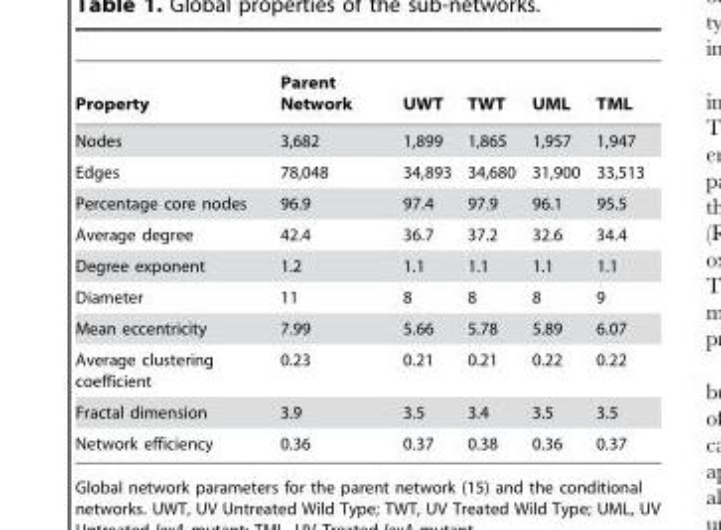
<table><thead><tr><td>Property</td><td>Parent Network</td><td>UWT</td><td>TWT</td><td>UML</td><td>TML</td></tr></thead><tbody><tr><td>Nodes</td><td>3,682</td><td>1,899</td><td>1,865</td><td>1,957</td><td>1,947</td></tr><tr><td>Edges</td><td>78,048</td><td>34,893</td><td>34,680</td><td>31,900</td><td>33,513</td></tr><tr><td>Percentage core nodes</td><td>96.9</td><td>97.4</td><td>97.9</td><td>96.1</td><td>95.5</td></tr><tr><td>Average degree</td><td>42.4</td><td>36.7</td><td>37.2</td><td>32.6</td><td>34.4</td></tr><tr><td>Degree exponent</td><td>1.2</td><td>1.1</td><td>1.1</td><td>1.1</td><td>1.1</td></tr><tr><td>Diameter</td><td>11</td><td>8</td><td>8</td><td>8</td><td>9</td></tr><tr><td>Mean eccentricity</td><td>7.99</td><td>5.66</td><td>5.78</td><td>5.89</td><td>6.07</td></tr><tr><td>Average clustering coefficient</td><td>0.23</td><td>0.21</td><td>0.21</td><td>0.22</td><td>0.22</td></tr><tr><td>Fractal dimension</td><td>3.9</td><td>3.5</td><td>3.4</td><td>3.5</td><td>3.5</td></tr><tr><td>Network efficiency</td><td>0.36</td><td>0.37</td><td>0.38</td><td>0.36</td><td>0.37</td></tr></tbody></table>